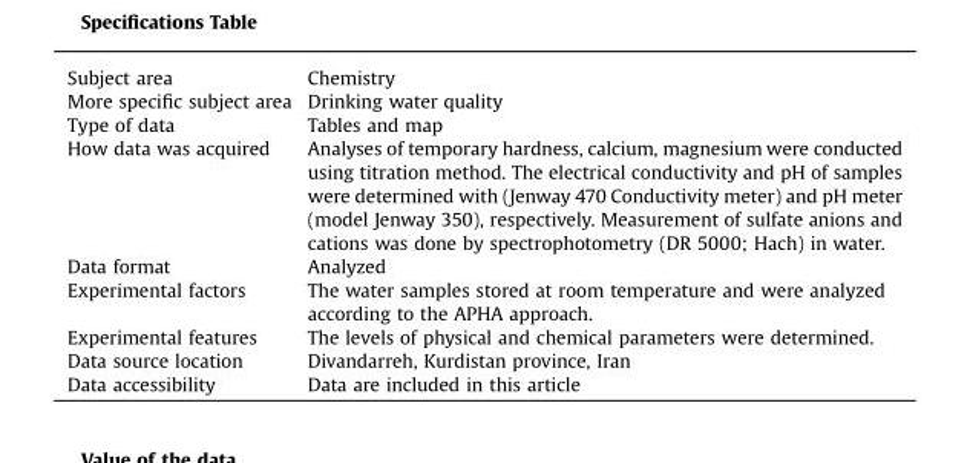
<table><tbody><tr><td>Subject area</td><td>Chemistry</td></tr><tr><td>More specific subject area</td><td>Drinking water quality</td></tr><tr><td>Type of data</td><td>Tables and map</td></tr><tr><td>How data was acquired</td><td>Analyses of temporary hardness, calcium, magnesium were conducted using titration method. The electrical conductivity and pH of samples were determined with (Jenway 470 Conductivity meter) and pH meter (model Jenway 350), respectively. Measurement of sulfate anions and cations was done by spectrophotometry (DR 5000; Hach) in water.</td></tr><tr><td>Data format</td><td>Analyzed</td></tr><tr><td>Experimental factors</td><td>The water samples stored at room temperature and were analyzed according to the APHA approach.</td></tr><tr><td>Experimental features</td><td>The levels of physical and chemical parameters were determined.</td></tr><tr><td>Data source location</td><td>Divandarreh, Kurdistan province, Iran</td></tr><tr><td>Data accessibility</td><td>Data are included in this article</td></tr></tbody></table>